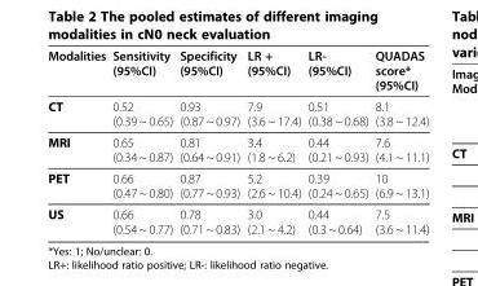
<table><thead><tr><td>Modalities</td><td>Sensitivity (95%CI)</td><td>Specificity (95%CI)</td><td>LR + (95%CI)</td><td>LR- (95%CI)</td><td>QUADAS score* (95%CI)</td></tr></thead><tbody><tr><td>CT</td><td>0.52 (0.39 ~ 0.65)</td><td>0.93 (0.87 ~ 0.97)</td><td>7.9 (3.6 ~ 17.4)</td><td>0.51 (0.38 ~ 0.68)</td><td>8.1 (3.8 ~ 12.4)</td></tr><tr><td>MRI</td><td>0.65 (0.34 ~ 0.87)</td><td>0.81 (0.64 ~ 0.91)</td><td>3.4 (1.8 ~ 6.2)</td><td>0.44 (0.21 ~ 0.93)</td><td>7.6 (4.1 ~ 11.1)</td></tr><tr><td>PET</td><td>0.66 (0.47 ~ 0.80)</td><td>0.87 (0.77 ~ 0.93)</td><td>5.2 (2.6 ~ 10.4)</td><td>0.39 (0.24 ~ 0.65)</td><td>10 (6.9 ~ 13.1)</td></tr><tr><td>US</td><td>0.66 (0.54 ~ 0.77)</td><td>0.78 (0.71 ~ 0.83)</td><td>3.0 (2.1 ~ 4.2)</td><td>0.44 (0.3 ~ 0.64)</td><td>7.5 (3.6 ~ 11.4)</td></tr></tbody></table>